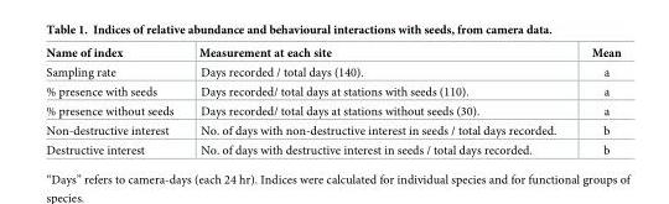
<table><thead><tr><td>Name of index</td><td>Measurement at each site</td><td>Mean</td></tr></thead><tbody><tr><td>Sampling rate</td><td>Days recorded / total days (140).</td><td>a</td></tr><tr><td>% presence with seeds</td><td>Days recorded/ total days at stations with seeds (110).</td><td>a</td></tr><tr><td>% presence without seeds</td><td>Days recorded/ total days at stations without seeds (30).</td><td>a</td></tr><tr><td>Non-destructive interest</td><td>No. of days with non-destructive interest in seeds / total days recorded.</td><td>b</td></tr><tr><td>Destructive interest</td><td>No. of days with destructive interest in seeds / total days recorded.</td><td>b</td></tr></tbody></table>